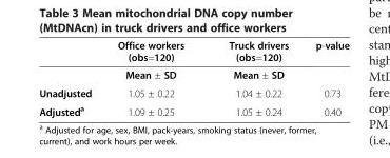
<table><thead><tr><td></td><td>Office workers (obs=120)</td><td>Truck drivers (obs=120)</td><td>p-value</td></tr></thead><tbody><tr><td></td><td>Mean ± SD</td><td>Mean ± SD</td><td></td></tr><tr><td>Unadjusted</td><td>1.05 ± 0.22</td><td>1.04 ± 0.22</td><td>0.73</td></tr><tr><td>Adjusted<sup>a</sup></td><td>1.09 ± 0.25</td><td>1.05 ± 0.24</td><td>0.40</td></tr></tbody></table>